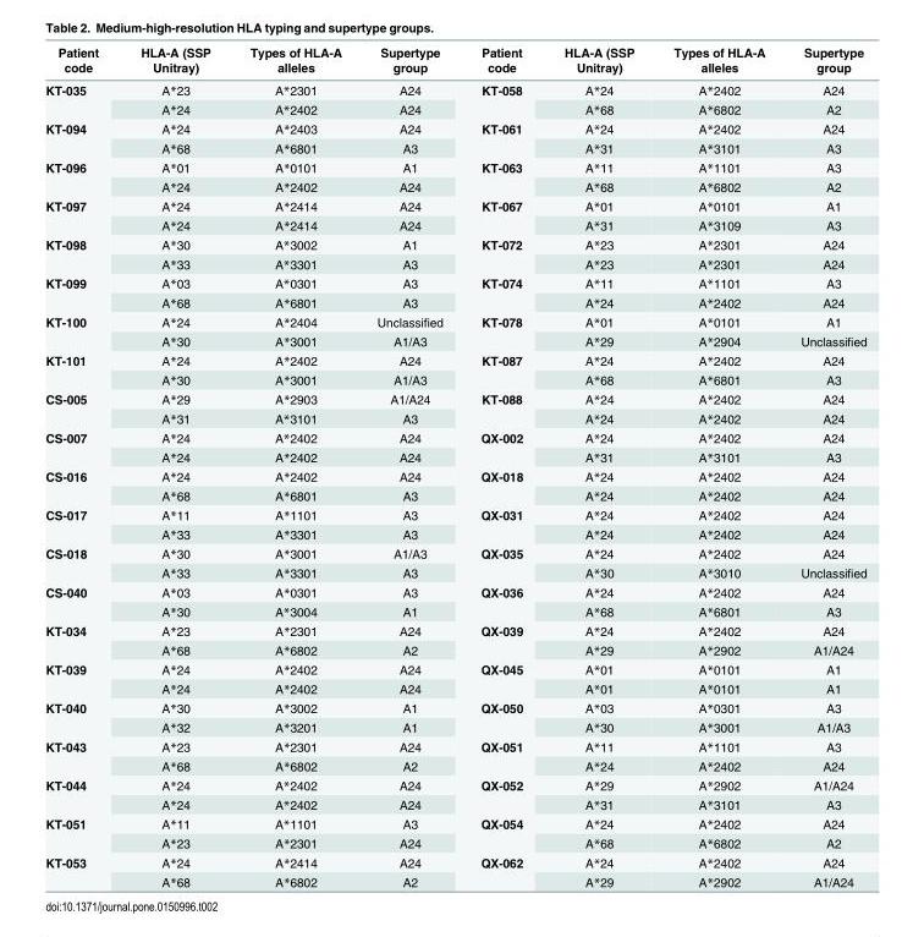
<table><thead><tr><td>Patient code</td><td>HLA-A (SSP Unitray)</td><td>Types of HLA-A alleles</td><td>Supertype group</td><td>Patient code</td><td>HLA-A (SSP Unitray)</td><td>Types of HLA-A alleles</td><td>Supertype group</td></tr></thead><tbody><tr><td rowspan="2">KT-035</td><td>A*23</td><td>A*2301</td><td>A24</td><td rowspan="2">KT-058</td><td>A*24</td><td>A*2402</td><td>A24</td></tr><tr><td>A*24</td><td>A*2402</td><td>A24</td><td>A*68</td><td>A*6802</td><td>A2</td></tr><tr><td rowspan="2">KT-094</td><td>A*24</td><td>A*2403</td><td>A24</td><td rowspan="2">KT-061</td><td>A*24</td><td>A*2402</td><td>A24</td></tr><tr><td>A*68</td><td>A*6801</td><td>A3</td><td>A*31</td><td>A*3101</td><td>A3</td></tr><tr><td rowspan="2">KT-096</td><td>A*01</td><td>A*0101</td><td>A1</td><td rowspan="2">KT-063</td><td>A*11</td><td>A*1101</td><td>A3</td></tr><tr><td>A*24</td><td>A*2402</td><td>A24</td><td>A*68</td><td>A*6802</td><td>A2</td></tr><tr><td rowspan="2">KT-097</td><td>A*24</td><td>A*2414</td><td>A24</td><td rowspan="2">KT-067</td><td>A*01</td><td>A*0101</td><td>A1</td></tr><tr><td>A*24</td><td>A*2414</td><td>A24</td><td>A*31</td><td>A*3109</td><td>A3</td></tr><tr><td rowspan="2">KT-098</td><td>A*30</td><td>A*3002</td><td>A1</td><td rowspan="2">KT-072</td><td>A*23</td><td>A*2301</td><td>A24</td></tr><tr><td>A*33</td><td>A*3301</td><td>A3</td><td>A*23</td><td>A*2301</td><td>A24</td></tr><tr><td rowspan="2">KT-099</td><td>A*03</td><td>A*0301</td><td>A3</td><td rowspan="2">KT-074</td><td>A*11</td><td>A*1101</td><td>A3</td></tr><tr><td>A*68</td><td>A*6801</td><td>A3</td><td>A*24</td><td>A*2402</td><td>A24</td></tr><tr><td rowspan="2">KT-100</td><td>A*24</td><td>A*2404</td><td>Unclassified</td><td rowspan="2">KT-078</td><td>A*01</td><td>A*0101</td><td>A1</td></tr><tr><td>A*30</td><td>A*3001</td><td>A1/A3</td><td>A*29</td><td>A*2904</td><td>Unclassified</td></tr><tr><td rowspan="2">KT-101</td><td>A*24</td><td>A*2402</td><td>A24</td><td rowspan="2">KT-087</td><td>A*24</td><td>A*2402</td><td>A24</td></tr><tr><td>A*30</td><td>A*3001</td><td>A1/A3</td><td>A*68</td><td>A*6801</td><td>A3</td></tr><tr><td rowspan="2">CS-005</td><td>A*29</td><td>A*2903</td><td>A1/A24</td><td rowspan="2">KT-088</td><td>A*24</td><td>A*2402</td><td>A24</td></tr><tr><td>A*31</td><td>A*3101</td><td>A3</td><td>A*24</td><td>A*2402</td><td>A24</td></tr><tr><td rowspan="2">CS-007</td><td>A*24</td><td>A*2402</td><td>A24</td><td rowspan="2">QX-002</td><td>A*24</td><td>A*2402</td><td>A24</td></tr><tr><td>A*24</td><td>A*2402</td><td>A24</td><td>A*31</td><td>A*3101</td><td>A3</td></tr><tr><td rowspan="2">CS-016</td><td>A*24</td><td>A*2402</td><td>A24</td><td rowspan="2">QX-018</td><td>A*24</td><td>A*2402</td><td>A24</td></tr><tr><td>A*68</td><td>A*6801</td><td>A3</td><td>A*24</td><td>A*2402</td><td>A24</td></tr><tr><td rowspan="2">CS-017</td><td>A*11</td><td>A*1101</td><td>A3</td><td rowspan="2">QX-031</td><td>A*24</td><td>A*2402</td><td>A24</td></tr><tr><td>A*33</td><td>A*3301</td><td>A3</td><td>A*24</td><td>A*2402</td><td>A24</td></tr><tr><td rowspan="2">CS-018</td><td>A*30</td><td>A*3001</td><td>A1/A3</td><td rowspan="2">QX-035</td><td>A*24</td><td>A*2402</td><td>A24</td></tr><tr><td>A*33</td><td>A*3301</td><td>A3</td><td>A*30</td><td>A*3010</td><td>Unclassified</td></tr><tr><td rowspan="2">CS-040</td><td>A*03</td><td>A*0301</td><td>A3</td><td rowspan="2">QX-036</td><td>A*24</td><td>A*2402</td><td>A24</td></tr><tr><td>A*30</td><td>A*3004</td><td>A1</td><td>A*68</td><td>A*6801</td><td>A3</td></tr><tr><td rowspan="2">KT-034</td><td>A*23</td><td>A*2301</td><td>A24</td><td rowspan="2">QX-039</td><td>A*24</td><td>A*2402</td><td>A24</td></tr><tr><td>A*68</td><td>A*6802</td><td>A2</td><td>A*29</td><td>A*2902</td><td>A1/A24</td></tr><tr><td rowspan="2">KT-039</td><td>A*24</td><td>A*2402</td><td>A24</td><td rowspan="2">QX-045</td><td>A*01</td><td>A*0101</td><td>A1</td></tr><tr><td>A*24</td><td>A*2402</td><td>A24</td><td>A*01</td><td>A*0101</td><td>A1</td></tr><tr><td rowspan="2">KT-040</td><td>A*30</td><td>A*3002</td><td>A1</td><td rowspan="2">QX-050</td><td>A*03</td><td>A*0301</td><td>A3</td></tr><tr><td>A*32</td><td>A*3201</td><td>A1</td><td>A*30</td><td>A*3001</td><td>A1/A3</td></tr><tr><td rowspan="2">KT-043</td><td>A*23</td><td>A*2301</td><td>A24</td><td rowspan="2">QX-051</td><td>A*11</td><td>A*1101</td><td>A3</td></tr><tr><td>A*68</td><td>A*6802</td><td>A2</td><td>A*24</td><td>A*2402</td><td>A24</td></tr><tr><td rowspan="2">KT-044</td><td>A*24</td><td>A*2402</td><td>A24</td><td rowspan="2">QX-052</td><td>A*29</td><td>A*2902</td><td>A1/A24</td></tr><tr><td>A*24</td><td>A*2402</td><td>A24</td><td>A*31</td><td>A*3101</td><td>A3</td></tr><tr><td rowspan="2">KT-051</td><td>A*11</td><td>A*1101</td><td>A3</td><td rowspan="2">QX-054</td><td>A*24</td><td>A*2402</td><td>A24</td></tr><tr><td>A*23</td><td>A*2301</td><td>A24</td><td>A*68</td><td>A*6802</td><td>A2</td></tr><tr><td rowspan="2">KT-053</td><td>A*24</td><td>A*2414</td><td>A24</td><td rowspan="2">QX-062</td><td>A*24</td><td>A*2402</td><td>A24</td></tr><tr><td>A*68</td><td>A*6802</td><td>A2</td><td>A*29</td><td>A*2902</td><td>A1/A24</td></tr></tbody></table>